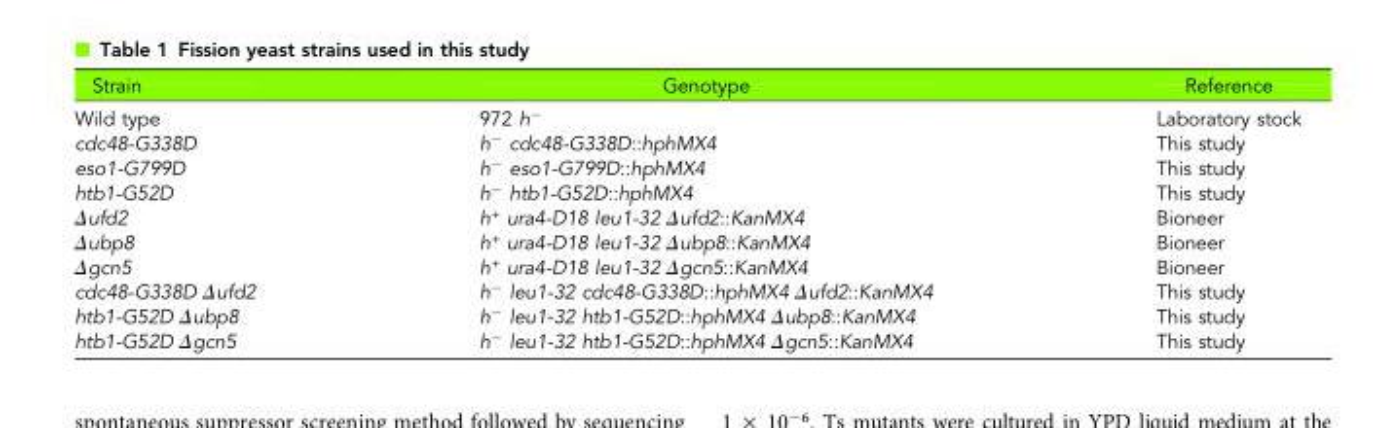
<table><thead><tr><td>Strain</td><td>Genotype</td><td>Reference</td></tr></thead><tbody><tr><td>Wild type</td><td>972 h<sup>−</sup></td><td>Laboratory stock</td></tr><tr><td>cdc48-G338D</td><td>h<sup>−</sup> cdc48-G338D::hphMX4</td><td>This study</td></tr><tr><td>eso1-G799D</td><td>h<sup>−</sup> eso1-G799D::hphMX4</td><td>This study</td></tr><tr><td>htb1-G52D</td><td>h<sup>−</sup> htb1-G52D::hphMX4</td><td>This study</td></tr><tr><td>Δufd2</td><td>h<sup>+</sup> ura4-D18 leu1-32 Δufd2::KanMX4</td><td>Bioneer</td></tr><tr><td>Δubp8</td><td>h<sup>+</sup> ura4-D18 leu1-32 Δubp8::KanMX4</td><td>Bioneer</td></tr><tr><td>Δgcn5</td><td>h<sup>+</sup> ura4-D18 leu1-32 Δgcn5::KanMX4</td><td>Bioneer</td></tr><tr><td>cdc48-G338D Δufd2</td><td>h<sup>−</sup> leu1-32 cdc48-G338D::hphMX4 Δufd2::KanMX4</td><td>This study</td></tr><tr><td>htb1-G52D Δubp8</td><td>h<sup>−</sup> leu1-32 htb1-G52D::hphMX4 Δubp8::KanMX4</td><td>This study</td></tr><tr><td>htb1-G52D Δgcn5</td><td>h<sup>−</sup> leu1-32 htb1-G52D::hphMX4 Δgcn5::KanMX4</td><td>This study</td></tr></tbody></table>